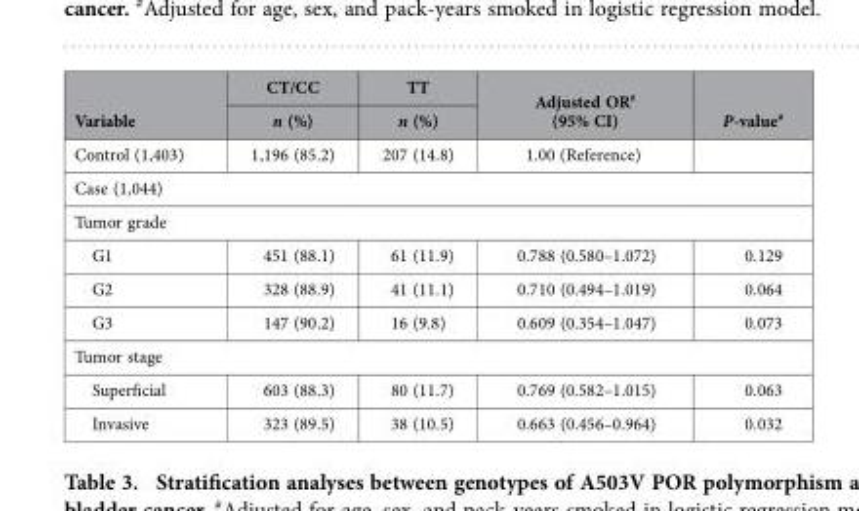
<table><thead><tr><td rowspan="2">Variable</td><td rowspan="2">CT/CC n (%)</td><td rowspan="2">TT n (%)</td><td rowspan="2">Adjusted OR# (95% CI)</td><td rowspan="2">P-value#</td></tr><tr></tr></thead><tbody><tr><td>Control (1,403)</td><td>1,196 (85.2)</td><td>207 (14.8)</td><td>1.00 (Reference)</td><td></td></tr><tr><td colspan="5">Case (1,044)</td></tr><tr><td colspan="5">Tumor grade</td></tr><tr><td>G1</td><td>451 (88.1)</td><td>61 (11.9)</td><td>0.788 (0.580–1.072)</td><td>0.129</td></tr><tr><td>G2</td><td>328 (88.9)</td><td>41 (11.1)</td><td>0.710 (0.494–1.019)</td><td>0.064</td></tr><tr><td>G3</td><td>147 (90.2)</td><td>16 (9.8)</td><td>0.609 (0.354–1.047)</td><td>0.073</td></tr><tr><td colspan="5">Tumor stage</td></tr><tr><td>Superficial</td><td>603 (88.3)</td><td>80 (11.7)</td><td>0.769 (0.582–1.015)</td><td>0.063</td></tr><tr><td>Invasive</td><td>323 (89.5)</td><td>38 (10.5)</td><td>0.663 (0.456–0.964)</td><td>0.032</td></tr></tbody></table>